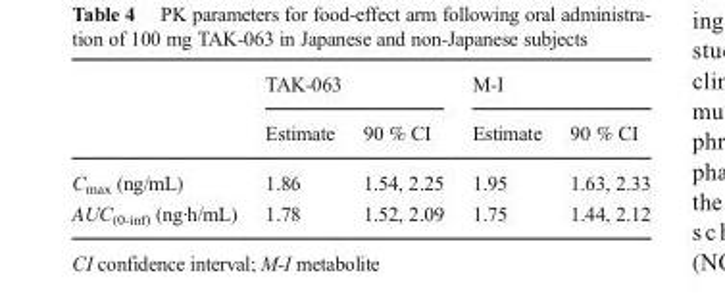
<table><thead><tr><td rowspan="2"></td><td colspan="2">TAK-063</td><td colspan="2">M-I</td></tr><tr><td>Estimate</td><td>90 % CI</td><td>Estimate</td><td>90 % CI</td></tr></thead><tbody><tr><td>C<sub>max</sub> (ng/mL)</td><td>1.86</td><td>1.54, 2.25</td><td>1.95</td><td>1.63, 2.33</td></tr><tr><td>AUC<sub>(0-inf)</sub> (ng·h/mL)</td><td>1.78</td><td>1.52, 2.09</td><td>1.75</td><td>1.44, 2.12</td></tr></tbody></table>